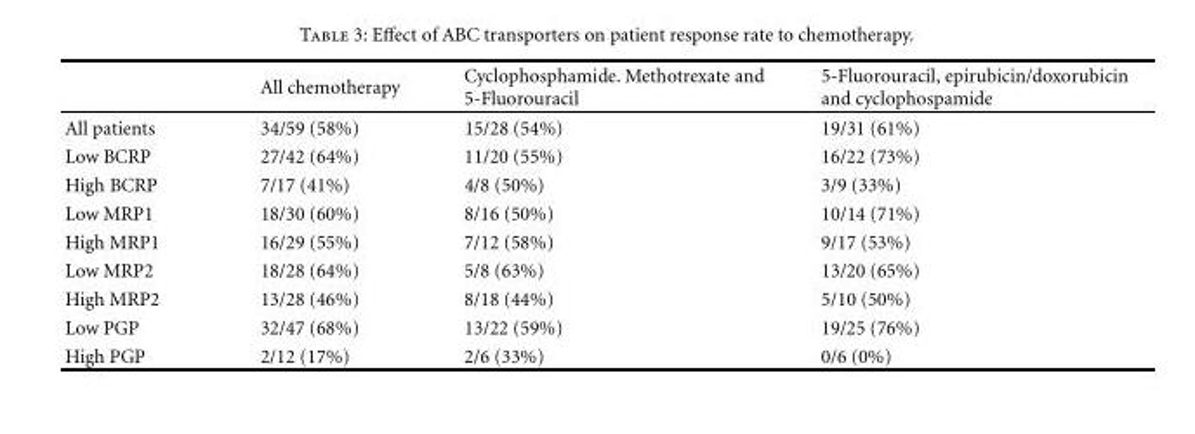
<table><thead><tr><td></td><td>All chemotherapy</td><td>Cyclophosphamide. Methotrexate and 5-Fluorouracil</td><td>5-Fluorouracil, epirubicin/doxorubicin and cyclophospamide</td></tr></thead><tbody><tr><td>All patients</td><td>34/59 (58%)</td><td>15/28 (54%)</td><td>19/31 (61%)</td></tr><tr><td>Low BCRP</td><td>27/42 (64%)</td><td>11/20 (55%)</td><td>16/22 (73%)</td></tr><tr><td>High BCRP</td><td>7/17 (41%)</td><td>4/8 (50%)</td><td>3/9 (33%)</td></tr><tr><td>Low MRP1</td><td>18/30 (60%)</td><td>8/16 (50%)</td><td>10/14 (71%)</td></tr><tr><td>High MRP1</td><td>16/29 (55%)</td><td>7/12 (58%)</td><td>9/17 (53%)</td></tr><tr><td>Low MRP2</td><td>18/28 (64%)</td><td>5/8 (63%)</td><td>13/20 (65%)</td></tr><tr><td>High MRP2</td><td>13/28 (46%)</td><td>8/18 (44%)</td><td>5/10 (50%)</td></tr><tr><td>Low PGP</td><td>32/47 (68%)</td><td>13/22 (59%)</td><td>19/25 (76%)</td></tr><tr><td>High PGP</td><td>2/12 (17%)</td><td>2/6 (33%)</td><td>0/6 (0%)</td></tr></tbody></table>